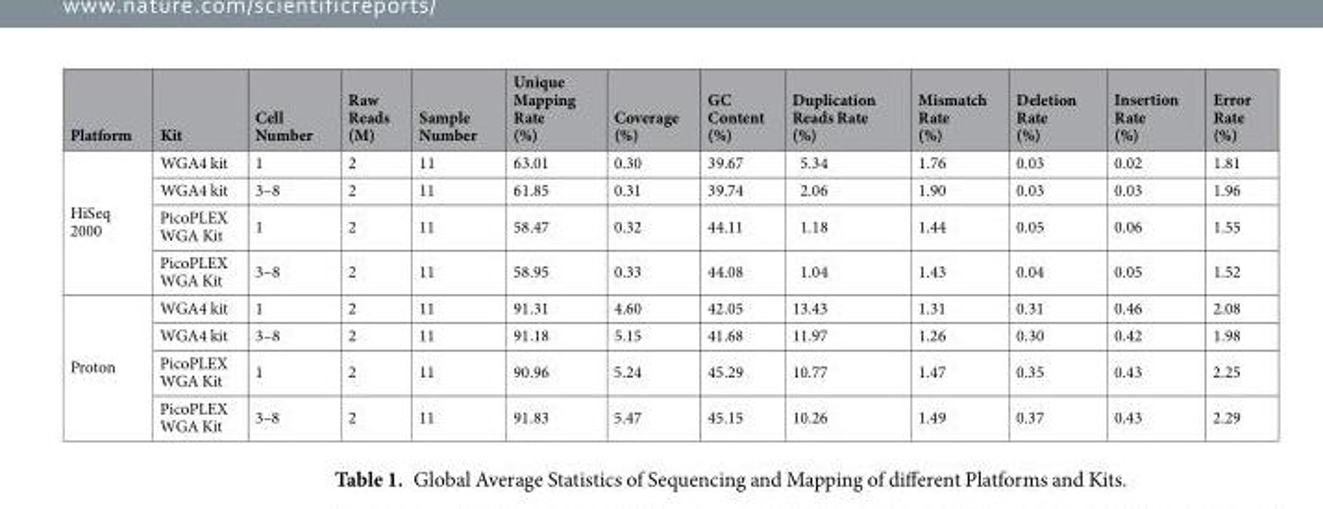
<table><thead><tr><td>Platform</td><td>Kit</td><td>Cell Number</td><td>Raw Reads (M)</td><td>Sample Number</td><td>Unique Mapping Rate (%)</td><td>Coverage (%)</td><td>GC Content (%)</td><td>Duplication Reads Rate (%)</td><td>Mismatch Rate (%)</td><td>Deletion Rate (%)</td><td>Insertion Rate (%)</td><td>Error Rate (%)</td></tr></thead><tbody><tr><td rowspan="4">HiSeq 2000</td><td>WGA4 kit</td><td>1</td><td>2</td><td>11</td><td>63.01</td><td>0.30</td><td>39.67</td><td>5.34</td><td>1.76</td><td>0.03</td><td>0.02</td><td>1.81</td></tr><tr><td>WGA4 kit</td><td>3–8</td><td>2</td><td>11</td><td>61.85</td><td>0.31</td><td>39.74</td><td>2.06</td><td>1.90</td><td>0.03</td><td>0.03</td><td>1.96</td></tr><tr><td>PicoPLEX WGA Kit</td><td>1</td><td>2</td><td>11</td><td>58.47</td><td>0.32</td><td>44.11</td><td>1.18</td><td>1.44</td><td>0.05</td><td>0.06</td><td>1.55</td></tr><tr><td>PicoPLEX WGA Kit</td><td>3–8</td><td>2</td><td>11</td><td>58.95</td><td>0.33</td><td>44.08</td><td>1.04</td><td>1.43</td><td>0.04</td><td>0.05</td><td>1.52</td></tr><tr><td rowspan="4">Proton</td><td>WGA4 kit</td><td>1</td><td>2</td><td>11</td><td>91.31</td><td>4.60</td><td>42.05</td><td>13.43</td><td>1.31</td><td>0.31</td><td>0.46</td><td>2.08</td></tr><tr><td>WGA4 kit</td><td>3–8</td><td>2</td><td>11</td><td>91.18</td><td>5.15</td><td>41.68</td><td>11.97</td><td>1.26</td><td>0.30</td><td>0.42</td><td>1.98</td></tr><tr><td>PicoPLEX WGA Kit</td><td>1</td><td>2</td><td>11</td><td>90.96</td><td>5.24</td><td>45.29</td><td>10.77</td><td>1.47</td><td>0.35</td><td>0.43</td><td>2.25</td></tr><tr><td>PicoPLEX WGA Kit</td><td>3–8</td><td>2</td><td>11</td><td>91.83</td><td>5.47</td><td>45.15</td><td>10.26</td><td>1.49</td><td>0.37</td><td>0.43</td><td>2.29</td></tr></tbody></table>